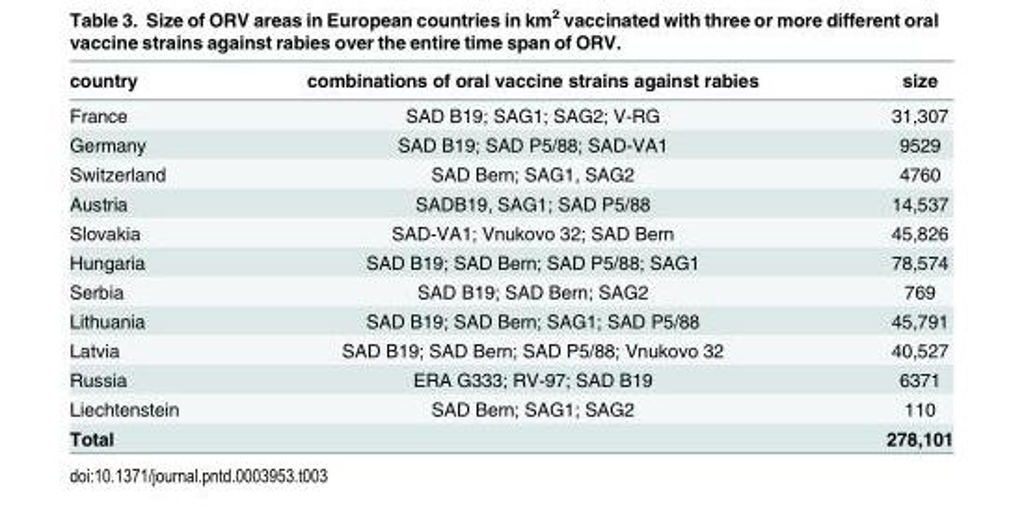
<table><thead><tr><td>country</td><td>combinations of oral vaccine strains against rabies</td><td>size</td></tr></thead><tbody><tr><td>France</td><td>SAD B19; SAG1; SAG2; V-RG</td><td>31,307</td></tr><tr><td>Germany</td><td>SAD B19; SAD P5/88; SAD-VA1</td><td>9529</td></tr><tr><td>Switzerland</td><td>SAD Bern; SAG1, SAG2</td><td>4760</td></tr><tr><td>Austria</td><td>SADB19, SAG1; SAD P5/88</td><td>14,537</td></tr><tr><td>Slovakia</td><td>SAD-VA1; Vnukovo 32; SAD Bern</td><td>45,826</td></tr><tr><td>Hungaria</td><td>SAD B19; SAD Bern; SAD P5/88; SAG1</td><td>78,574</td></tr><tr><td>Serbia</td><td>SAD B19; SAD Bern; SAG2</td><td>769</td></tr><tr><td>Lithuania</td><td>SAD B19; SAD Bern; SAG1; SAD P5/88</td><td>45,791</td></tr><tr><td>Latvia</td><td>SAD B19; SAD Bern; SAD P5/88; Vnukovo 32</td><td>40,527</td></tr><tr><td>Russia</td><td>ERA G333; RV-97; SAD B19</td><td>6371</td></tr><tr><td>Liechtenstein</td><td>SAD Bern; SAG1; SAG2</td><td>110</td></tr><tr><td>Total</td><td></td><td>278,101</td></tr></tbody></table>